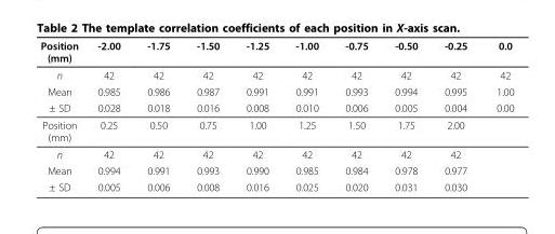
<table><thead><tr><td>Position (mm)</td><td>-2.00</td><td>-1.75</td><td>-1.50</td><td>-1.25</td><td>-1.00</td><td>-0.75</td><td>-0.50</td><td>-0.25</td><td>0.0</td></tr></thead><tbody><tr><td>n</td><td>42</td><td>42</td><td>42</td><td>42</td><td>42</td><td>42</td><td>42</td><td>42</td><td>42</td></tr><tr><td>Mean</td><td>0.985</td><td>0.986</td><td>0.987</td><td>0.991</td><td>0.991</td><td>0.993</td><td>0.994</td><td>0.995</td><td>1.00</td></tr><tr><td>± SD</td><td>0.028</td><td>0.018</td><td>0.016</td><td>0.008</td><td>0.010</td><td>0.006</td><td>0.005</td><td>0.004</td><td>0.00</td></tr><tr><td>Position (mm)</td><td>0.25</td><td>0.50</td><td>0.75</td><td>1.00</td><td>1.25</td><td>1.50</td><td>1.75</td><td>2.00</td><td></td></tr><tr><td>n</td><td>42</td><td>42</td><td>42</td><td>42</td><td>42</td><td>42</td><td>42</td><td>42</td><td></td></tr><tr><td>Mean</td><td>0.994</td><td>0.991</td><td>0.993</td><td>0.990</td><td>0.985</td><td>0.984</td><td>0.978</td><td>0.977</td><td></td></tr><tr><td>± SD</td><td>0.005</td><td>0.006</td><td>0.008</td><td>0.016</td><td>0.025</td><td>0.020</td><td>0.031</td><td>0.030</td><td></td></tr></tbody></table>